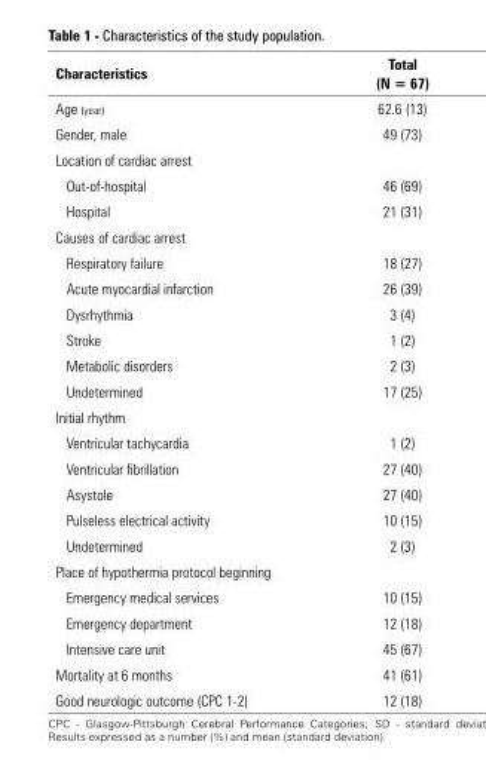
<table><thead><tr><td rowspan="2">Characteristics</td><td rowspan="2">Total (N = 67)</td></tr><tr></tr></thead><tbody><tr><td>Age (year)</td><td>62.6 (13)</td></tr><tr><td>Gender, male</td><td>49 (73)</td></tr><tr><td colspan="2">Location of cardiac arrest</td></tr><tr><td>Out-of-hospital</td><td>46 (69)</td></tr><tr><td>Hospital</td><td>21 (31)</td></tr><tr><td colspan="2">Causes of cardiac arrest</td></tr><tr><td>Respiratory failure</td><td>18 (27)</td></tr><tr><td>Acute myocardial infarction</td><td>26 (39)</td></tr><tr><td>Dysrhythmia</td><td>3 (4)</td></tr><tr><td>Stroke</td><td>1 (2)</td></tr><tr><td>Metabolic disorders</td><td>2 (3)</td></tr><tr><td>Undetermined</td><td>17 (25)</td></tr><tr><td colspan="2">Initial rhythm</td></tr><tr><td>Ventricular tachycardia</td><td>1 (2)</td></tr><tr><td>Ventricular fibrillation</td><td>27 (40)</td></tr><tr><td>Asystole</td><td>27 (40)</td></tr><tr><td>Pulseless electrical activity</td><td>10 (15)</td></tr><tr><td>Undetermined</td><td>2 (3)</td></tr><tr><td colspan="2">Place of hypothermia protocol beginning</td></tr><tr><td>Emergency medical services</td><td>10 (15)</td></tr><tr><td>Emergency department</td><td>12 (18)</td></tr><tr><td>Intensive care unit</td><td>45 (67)</td></tr><tr><td>Mortality at 6 months</td><td>41 (61)</td></tr><tr><td>Good neurologic outcome (CPC 1-2)</td><td>12 (18)</td></tr></tbody></table>